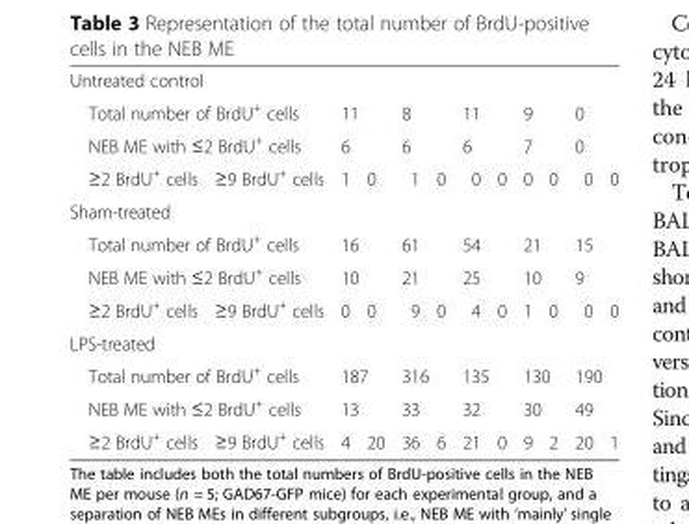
<table><tbody><tr><td colspan="12">Untreated control</td></tr><tr><td colspan="2">Total number of BrdU<sup>+</sup> cells</td><td colspan="2">11</td><td colspan="2">8</td><td colspan="2">11</td><td colspan="2">9</td><td colspan="2">0</td></tr><tr><td colspan="2">NEB ME with ≤2 BrdU<sup>+</sup> cells</td><td colspan="2">6</td><td colspan="2">6</td><td colspan="2">6</td><td colspan="2">7</td><td colspan="2">0</td></tr><tr><td>≥2 BrdU<sup>+</sup> cells</td><td>≥9 BrdU<sup>+</sup> cells</td><td>1</td><td>0</td><td>1</td><td>0</td><td>0</td><td>0</td><td>0</td><td>0</td><td>0</td><td>0</td></tr><tr><td colspan="12">Sham-treated</td></tr><tr><td colspan="2">Total number of BrdU<sup>+</sup> cells</td><td colspan="2">16</td><td colspan="2">61</td><td colspan="2">54</td><td colspan="2">21</td><td colspan="2">15</td></tr><tr><td colspan="2">NEB ME with ≤2 BrdU<sup>+</sup> cells</td><td colspan="2">10</td><td colspan="2">21</td><td colspan="2">25</td><td colspan="2">10</td><td colspan="2">9</td></tr><tr><td>≥2 BrdU<sup>+</sup> cells</td><td>≥9 BrdU<sup>+</sup> cells</td><td>0</td><td>0</td><td>9</td><td>0</td><td>4</td><td>0</td><td>1</td><td>0</td><td>0</td><td>0</td></tr><tr><td colspan="12">LPS-treated</td></tr><tr><td colspan="2">Total number of BrdU<sup>+</sup> cells</td><td colspan="2">187</td><td colspan="2">316</td><td colspan="2">135</td><td colspan="2">130</td><td colspan="2">190</td></tr><tr><td colspan="2">NEB ME with ≤2 BrdU<sup>+</sup> cells</td><td colspan="2">13</td><td colspan="2">33</td><td colspan="2">32</td><td colspan="2">30</td><td colspan="2">49</td></tr><tr><td>≥2 BrdU<sup>+</sup> cells</td><td>≥9 BrdU<sup>+</sup> cells</td><td>4</td><td>20</td><td>36</td><td>6</td><td>21</td><td>0</td><td>9</td><td>2</td><td>20</td><td>1</td></tr></tbody></table>